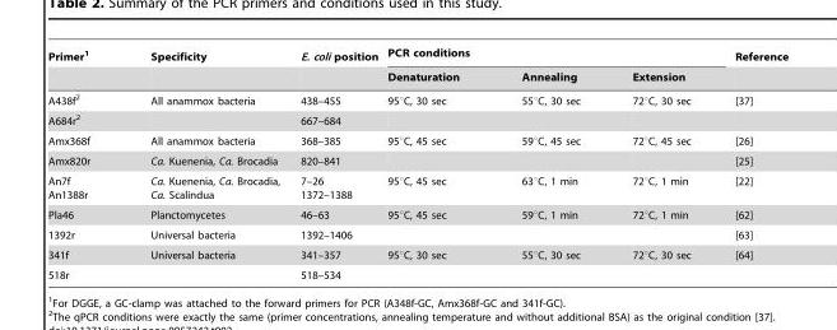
<table><thead><tr><td rowspan="2">Primer<sup>1</sup></td><td rowspan="2">Specificity</td><td rowspan="2">E. coli position</td><td colspan="3">PCR conditions</td><td rowspan="2">Reference</td></tr><tr><td>Denaturation</td><td>Annealing</td><td>Extension</td></tr></thead><tbody><tr><td>A438f<sup>2</sup></td><td>All anammox bacteria</td><td>438–455</td><td>95°C, 30 sec</td><td>55°C, 30 sec</td><td>72°C, 30 sec</td><td>[37]</td></tr><tr><td>A684r<sup>2</sup></td><td></td><td>667–684</td><td></td><td></td><td></td><td></td></tr><tr><td>Amx368f</td><td>All anammox bacteria</td><td>368–385</td><td>95°C, 45 sec</td><td>59°C, 45 sec</td><td>72°C, 45 sec</td><td>[26]</td></tr><tr><td>Amx820r</td><td>Ca. Kuenenia, Ca. Brocadia</td><td>820–841</td><td></td><td></td><td></td><td>[25]</td></tr><tr><td>An7f An1388r</td><td>Ca. Kuenenia, Ca. Brocadia, Ca. Scalindua</td><td>7–26 1372–1388</td><td>95°C, 45 sec</td><td>63°C, 1 min</td><td>72°C, 1 min</td><td>[22]</td></tr><tr><td>Pla46</td><td>Planctomycetes</td><td>46–63</td><td>95°C, 45 sec</td><td>59°C, 1 min</td><td>72°C, 1 min</td><td>[62]</td></tr><tr><td>1392r</td><td>Universal bacteria</td><td>1392–1406</td><td></td><td></td><td></td><td>[63]</td></tr><tr><td>341f</td><td>Universal bacteria</td><td>341–357</td><td>95°C, 30 sec</td><td>55°C, 30 sec</td><td>72°C, 30 sec</td><td>[64]</td></tr><tr><td>518r</td><td></td><td>518–534</td><td></td><td></td><td></td><td></td></tr></tbody></table>